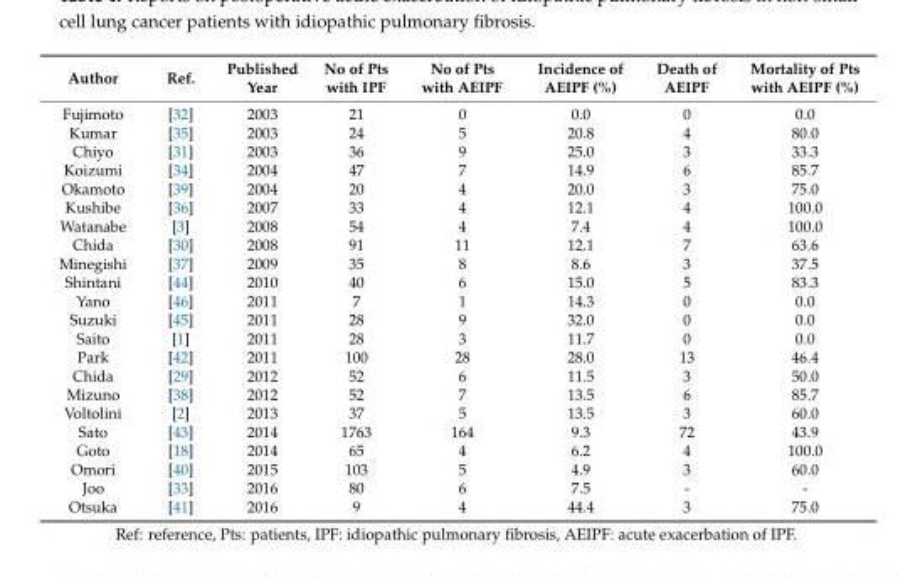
<table><thead><tr><td>Author</td><td>Ref.</td><td>Published Year</td><td>No of Pts with IPF</td><td>No of Pts with AEIPF</td><td>Incidence of AEIPF (%)</td><td>Death of AEIPF</td><td>Mortality of Pts with AEIPF (%)</td></tr></thead><tbody><tr><td>Fujimoto</td><td>[32]</td><td>2003</td><td>21</td><td>0</td><td>0.0</td><td>0</td><td>0.0</td></tr><tr><td>Kumar</td><td>[35]</td><td>2003</td><td>24</td><td>5</td><td>20.8</td><td>4</td><td>80.0</td></tr><tr><td>Chiyo</td><td>[31]</td><td>2003</td><td>36</td><td>9</td><td>25.0</td><td>3</td><td>33.3</td></tr><tr><td>Koizumi</td><td>[34]</td><td>2004</td><td>47</td><td>7</td><td>14.9</td><td>6</td><td>85.7</td></tr><tr><td>Okamoto</td><td>[39]</td><td>2004</td><td>20</td><td>4</td><td>20.0</td><td>3</td><td>75.0</td></tr><tr><td>Kushibe</td><td>[36]</td><td>2007</td><td>33</td><td>4</td><td>12.1</td><td>4</td><td>100.0</td></tr><tr><td>Watanabe</td><td>[3]</td><td>2008</td><td>54</td><td>4</td><td>7.4</td><td>4</td><td>100.0</td></tr><tr><td>Chida</td><td>[30]</td><td>2008</td><td>91</td><td>11</td><td>12.1</td><td>7</td><td>63.6</td></tr><tr><td>Minegishi</td><td>[37]</td><td>2009</td><td>35</td><td>8</td><td>8.6</td><td>3</td><td>37.5</td></tr><tr><td>Shintani</td><td>[44]</td><td>2010</td><td>40</td><td>6</td><td>15.0</td><td>5</td><td>83.3</td></tr><tr><td>Yano</td><td>[46]</td><td>2011</td><td>7</td><td>1</td><td>14.3</td><td>0</td><td>0.0</td></tr><tr><td>Suzuki</td><td>[45]</td><td>2011</td><td>28</td><td>9</td><td>32.0</td><td>0</td><td>0.0</td></tr><tr><td>Saito</td><td>[1]</td><td>2011</td><td>28</td><td>3</td><td>11.7</td><td>0</td><td>0.0</td></tr><tr><td>Park</td><td>[42]</td><td>2011</td><td>100</td><td>28</td><td>28.0</td><td>13</td><td>46.4</td></tr><tr><td>Chida</td><td>[29]</td><td>2012</td><td>52</td><td>6</td><td>11.5</td><td>3</td><td>50.0</td></tr><tr><td>Mizuno</td><td>[38]</td><td>2012</td><td>52</td><td>7</td><td>13.5</td><td>6</td><td>85.7</td></tr><tr><td>Voltolini</td><td>[2]</td><td>2013</td><td>37</td><td>5</td><td>13.5</td><td>3</td><td>60.0</td></tr><tr><td>Sato</td><td>[43]</td><td>2014</td><td>1763</td><td>164</td><td>9.3</td><td>72</td><td>43.9</td></tr><tr><td>Goto</td><td>[18]</td><td>2014</td><td>65</td><td>4</td><td>6.2</td><td>4</td><td>100.0</td></tr><tr><td>Omori</td><td>[40]</td><td>2015</td><td>103</td><td>5</td><td>4.9</td><td>3</td><td>60.0</td></tr><tr><td>Joo</td><td>[33]</td><td>2016</td><td>80</td><td>6</td><td>7.5</td><td>-</td><td>-</td></tr><tr><td>Otsuka</td><td>[41]</td><td>2016</td><td>9</td><td>4</td><td>44.4</td><td>3</td><td>75.0</td></tr></tbody></table>